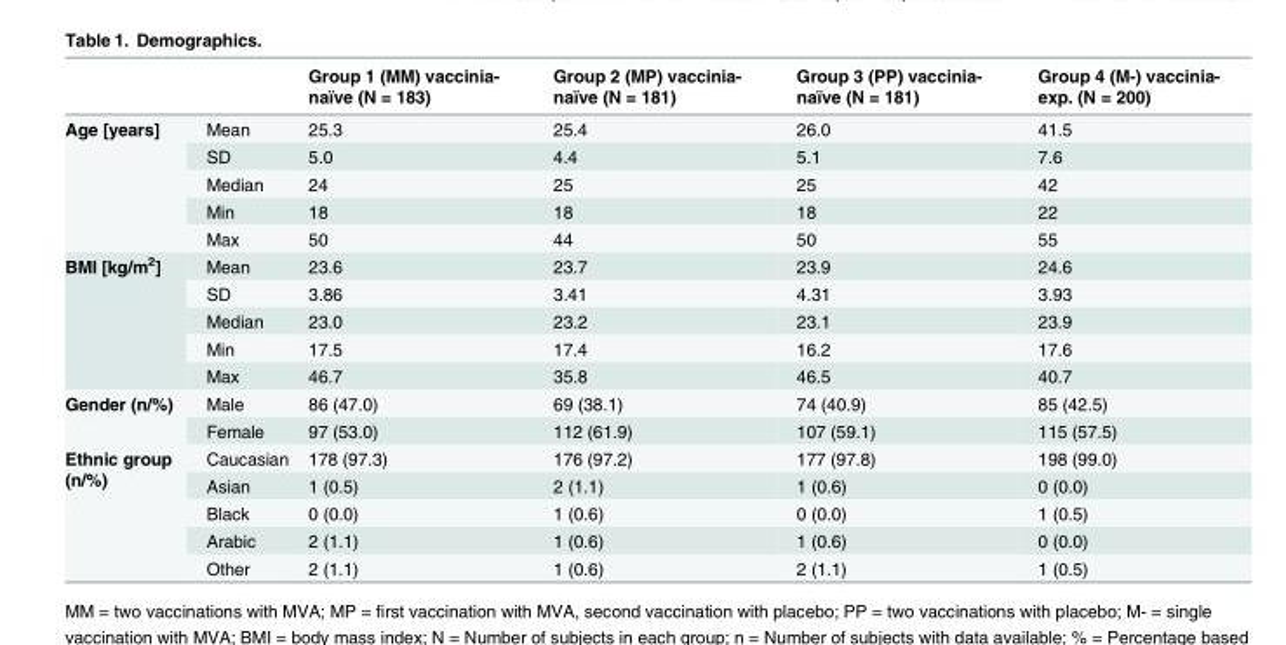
<table><thead><tr><td></td><td></td><td>Group 1 (MM) vaccinia- naïve (N = 183)</td><td>Group 2 (MP) vaccinia- naïve (N = 181)</td><td>Group 3 (PP) vaccinia- naïve (N = 181)</td><td>Group 4 (M-) vaccinia- exp. (N = 200)</td></tr></thead><tbody><tr><td rowspan="5">Age [years]</td><td>Mean</td><td>25.3</td><td>25.4</td><td>26.0</td><td>41.5</td></tr><tr><td>SD</td><td>5.0</td><td>4.4</td><td>5.1</td><td>7.6</td></tr><tr><td>Median</td><td>24</td><td>25</td><td>25</td><td>42</td></tr><tr><td>Min</td><td>18</td><td>18</td><td>18</td><td>22</td></tr><tr><td>Max</td><td>50</td><td>44</td><td>50</td><td>55</td></tr><tr><td rowspan="5">BMI [kg/m<sup>2</sup>]</td><td>Mean</td><td>23.6</td><td>23.7</td><td>23.9</td><td>24.6</td></tr><tr><td>SD</td><td>3.86</td><td>3.41</td><td>4.31</td><td>3.93</td></tr><tr><td>Median</td><td>23.0</td><td>23.2</td><td>23.1</td><td>23.9</td></tr><tr><td>Min</td><td>17.5</td><td>17.4</td><td>16.2</td><td>17.6</td></tr><tr><td>Max</td><td>46.7</td><td>35.8</td><td>46.5</td><td>40.7</td></tr><tr><td rowspan="2">Gender (n/%)</td><td>Male</td><td>86 (47.0)</td><td>69 (38.1)</td><td>74 (40.9)</td><td>85 (42.5)</td></tr><tr><td>Female</td><td>97 (53.0)</td><td>112 (61.9)</td><td>107 (59.1)</td><td>115 (57.5)</td></tr><tr><td rowspan="5">Ethnic group (n/%)</td><td>Caucasian</td><td>178 (97.3)</td><td>176 (97.2)</td><td>177 (97.8)</td><td>198 (99.0)</td></tr><tr><td>Asian</td><td>1 (0.5)</td><td>2 (1.1)</td><td>1 (0.6)</td><td>0 (0.0)</td></tr><tr><td>Black</td><td>0 (0.0)</td><td>1 (0.6)</td><td>0 (0.0)</td><td>1 (0.5)</td></tr><tr><td>Arabic</td><td>2 (1.1)</td><td>1 (0.6)</td><td>1 (0.6)</td><td>0 (0.0)</td></tr><tr><td>Other</td><td>2 (1.1)</td><td>1 (0.6)</td><td>2 (1.1)</td><td>1 (0.5)</td></tr></tbody></table>